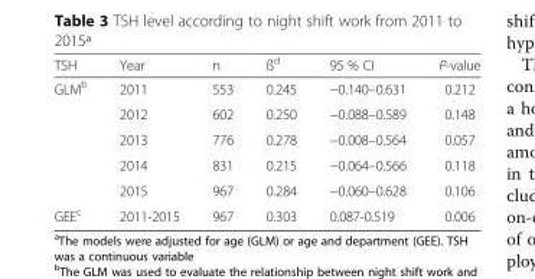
<table><thead><tr><td>TSH</td><td>Year</td><td>n</td><td>ß<sup>d</sup></td><td>95 % CI</td><td>P-value</td></tr></thead><tbody><tr><td rowspan="5">GLM<sup>b</sup></td><td>2011</td><td>553</td><td>0.245</td><td>−0.140–0.631</td><td>0.212</td></tr><tr><td>2012</td><td>602</td><td>0.250</td><td>−0.088–0.589</td><td>0.148</td></tr><tr><td>2013</td><td>776</td><td>0.278</td><td>−0.008–0.564</td><td>0.057</td></tr><tr><td>2014</td><td>831</td><td>0.215</td><td>−0.064–0.566</td><td>0.118</td></tr><tr><td>2015</td><td>967</td><td>0.284</td><td>−0.060–0.628</td><td>0.106</td></tr><tr><td>GEE<sup>c</sup></td><td>2011-2015</td><td>967</td><td>0.303</td><td>0.087-0.519</td><td>0.006</td></tr></tbody></table>